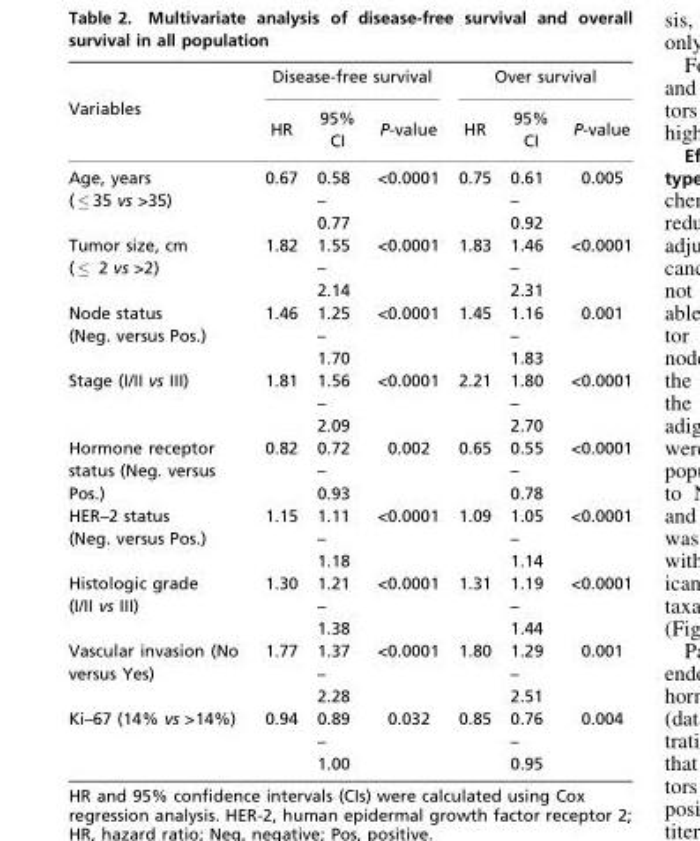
<table><thead><tr><td rowspan="2">Variables</td><td colspan="3">Disease-free survival</td><td colspan="3">Over survival</td></tr><tr><td>HR</td><td>95% CI</td><td>P-value</td><td>HR</td><td>95% CI</td><td>P-value</td></tr></thead><tbody><tr><td>Age, years ( ≤ 35 vs &gt;35)</td><td>0.67</td><td>0.58 – 0.77</td><td>&lt;0.0001</td><td>0.75</td><td>0.61 – 0.92</td><td>0.005</td></tr><tr><td>Tumor size, cm ( ≤ 2 vs &gt;2)</td><td>1.82</td><td>1.55 – 2.14</td><td>&lt;0.0001</td><td>1.83</td><td>1.46 – 2.31</td><td>&lt;0.0001</td></tr><tr><td>Node status (Neg. versus Pos.)</td><td>1.46</td><td>1.25 – 1.70</td><td>&lt;0.0001</td><td>1.45</td><td>1.16 – 1.83</td><td>0.001</td></tr><tr><td>Stage (I/II vs III)</td><td>1.81</td><td>1.56 – 2.09</td><td>&lt;0.0001</td><td>2.21</td><td>1.80 – 2.70</td><td>&lt;0.0001</td></tr><tr><td>Hormone receptor status (Neg. versus Pos.)</td><td>0.82</td><td>0.72 – 0.93</td><td>0.002</td><td>0.65</td><td>0.55 – 0.78</td><td>&lt;0.0001</td></tr><tr><td>HER–2 status (Neg. versus Pos.)</td><td>1.15</td><td>1.11 – 1.18</td><td>&lt;0.0001</td><td>1.09</td><td>1.05 – 1.14</td><td>&lt;0.0001</td></tr><tr><td>Histologic grade (I/II vs III)</td><td>1.30</td><td>1.21 – 1.38</td><td>&lt;0.0001</td><td>1.31</td><td>1.19 – 1.44</td><td>&lt;0.0001</td></tr><tr><td>Vascular invasion (No versus Yes)</td><td>1.77</td><td>1.37 – 2.28</td><td>&lt;0.0001</td><td>1.80</td><td>1.29 – 2.51</td><td>0.001</td></tr><tr><td>Ki–67 (14% vs &gt;14%)</td><td>0.94</td><td>0.89 – 1.00</td><td>0.032</td><td>0.85</td><td>0.76 – 0.95</td><td>0.004</td></tr></tbody></table>